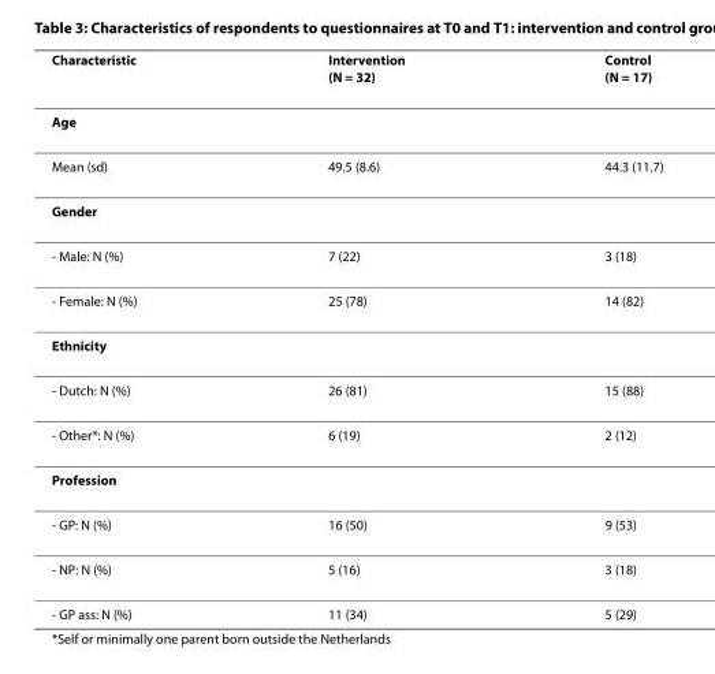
<table><thead><tr><td>Characteristic</td><td>Intervention (N = 32)</td><td>Control (N = 17)</td></tr></thead><tbody><tr><td colspan="3">Age</td></tr><tr><td>Mean (sd)</td><td>49.5 (8.6)</td><td>44.3 (11.7)</td></tr><tr><td colspan="3">Gender</td></tr><tr><td>- Male: N (%)</td><td>7 (22)</td><td>3 (18)</td></tr><tr><td>- Female: N (%)</td><td>25 (78)</td><td>14 (82)</td></tr><tr><td colspan="3">Ethnicity</td></tr><tr><td>- Dutch: N (%)</td><td>26 (81)</td><td>15 (88)</td></tr><tr><td>- Other*: N (%)</td><td>6 (19)</td><td>2 (12)</td></tr><tr><td colspan="3">Profession</td></tr><tr><td>- GP: N (%)</td><td>16 (50)</td><td>9 (53)</td></tr><tr><td>- NP: N (%)</td><td>5 (16)</td><td>3 (18)</td></tr><tr><td>- GP ass: N (%)</td><td>11 (34)</td><td>5 (29)</td></tr></tbody></table>